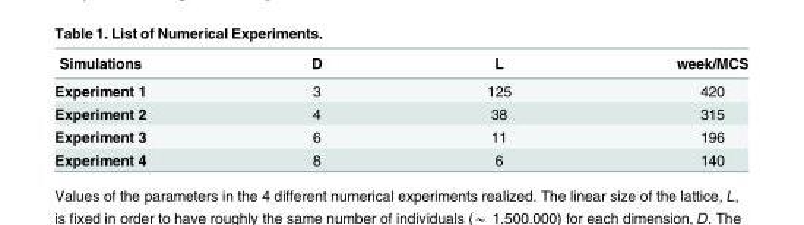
<table><thead><tr><td>Simulations</td><td>D</td><td>L</td><td>week/MCS</td></tr></thead><tbody><tr><td>Experiment 1</td><td>3</td><td>125</td><td>420</td></tr><tr><td>Experiment 2</td><td>4</td><td>38</td><td>315</td></tr><tr><td>Experiment 3</td><td>6</td><td>11</td><td>196</td></tr><tr><td>Experiment 4</td><td>8</td><td>6</td><td>140</td></tr></tbody></table>